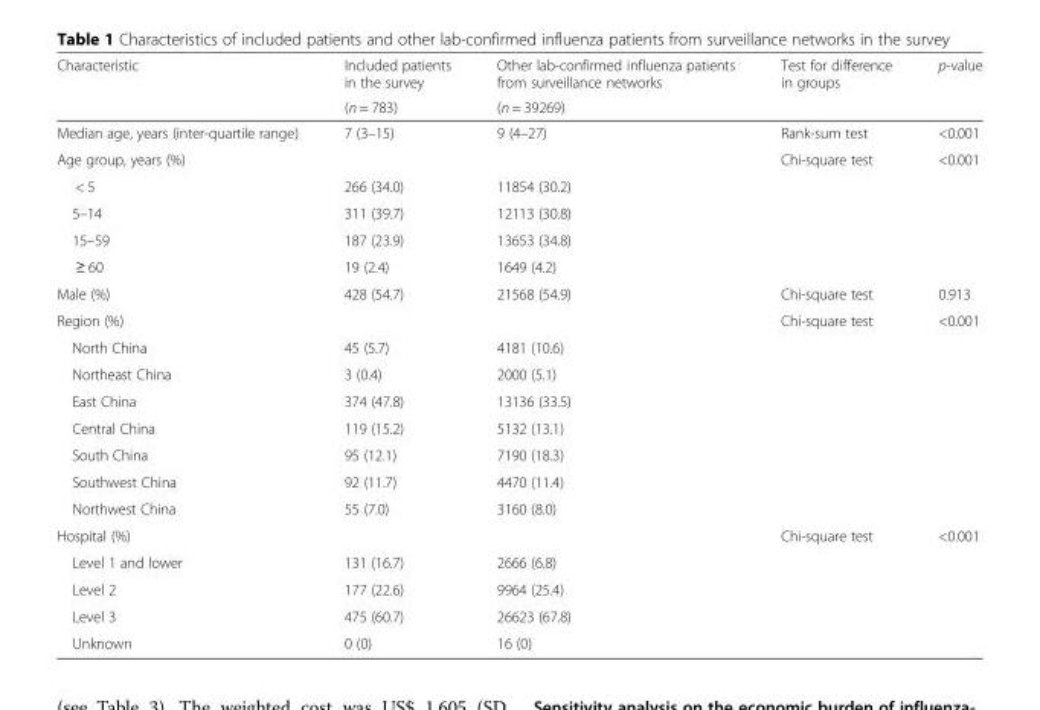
<table><thead><tr><td rowspan="2">Characteristic</td><td rowspan="2">Included patients in the survey (n = 783)</td><td rowspan="2">Other lab-confirmed influenza patients from surveillance networks (n = 39269)</td><td rowspan="2">Test for difference in groups</td><td rowspan="2">p-value</td></tr><tr></tr></thead><tbody><tr><td>Median age, years (inter-quartile range)</td><td>7 (3–15)</td><td>9 (4–27)</td><td>Rank-sum test</td><td>&lt;0.001</td></tr><tr><td>Age group, years (%)</td><td></td><td></td><td>Chi-square test</td><td>&lt;0.001</td></tr><tr><td>&lt; 5</td><td>266 (34.0)</td><td>11854 (30.2)</td><td></td><td></td></tr><tr><td>5–14</td><td>311 (39.7)</td><td>12113 (30.8)</td><td></td><td></td></tr><tr><td>15–59</td><td>187 (23.9)</td><td>13653 (34.8)</td><td></td><td></td></tr><tr><td>≥ 60</td><td>19 (2.4)</td><td>1649 (4.2)</td><td></td><td></td></tr><tr><td>Male (%)</td><td>428 (54.7)</td><td>21568 (54.9)</td><td>Chi-square test</td><td>0.913</td></tr><tr><td>Region (%)</td><td></td><td></td><td>Chi-square test</td><td>&lt;0.001</td></tr><tr><td>North China</td><td>45 (5.7)</td><td>4181 (10.6)</td><td></td><td></td></tr><tr><td>Northeast China</td><td>3 (0.4)</td><td>2000 (5.1)</td><td></td><td></td></tr><tr><td>East China</td><td>374 (47.8)</td><td>13136 (33.5)</td><td></td><td></td></tr><tr><td>Central China</td><td>119 (15.2)</td><td>5132 (13.1)</td><td></td><td></td></tr><tr><td>South China</td><td>95 (12.1)</td><td>7190 (18.3)</td><td></td><td></td></tr><tr><td>Southwest China</td><td>92 (11.7)</td><td>4470 (11.4)</td><td></td><td></td></tr><tr><td>Northwest China</td><td>55 (7.0)</td><td>3160 (8.0)</td><td></td><td></td></tr><tr><td>Hospital (%)</td><td></td><td></td><td>Chi-square test</td><td>&lt;0.001</td></tr><tr><td>Level 1 and lower</td><td>131 (16.7)</td><td>2666 (6.8)</td><td></td><td></td></tr><tr><td>Level 2</td><td>177 (22.6)</td><td>9964 (25.4)</td><td></td><td></td></tr><tr><td>Level 3</td><td>475 (60.7)</td><td>26623 (67.8)</td><td></td><td></td></tr><tr><td>Unknown</td><td>0 (0)</td><td>16 (0)</td><td></td><td></td></tr></tbody></table>